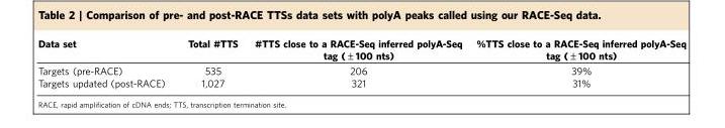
<table><thead><tr><td>Data set</td><td>Total #TTS</td><td>#TTS close to a RACE-Seq inferred polyA-Seq tag (±100 nts)</td><td>%TTS close to a RACE-Seq inferred polyA-Seq tag (±100 nts)</td></tr></thead><tbody><tr><td>Targets (pre-RACE)</td><td>535</td><td>206</td><td>39%</td></tr><tr><td>Targets updated (post-RACE)</td><td>1,027</td><td>321</td><td>31%</td></tr></tbody></table>